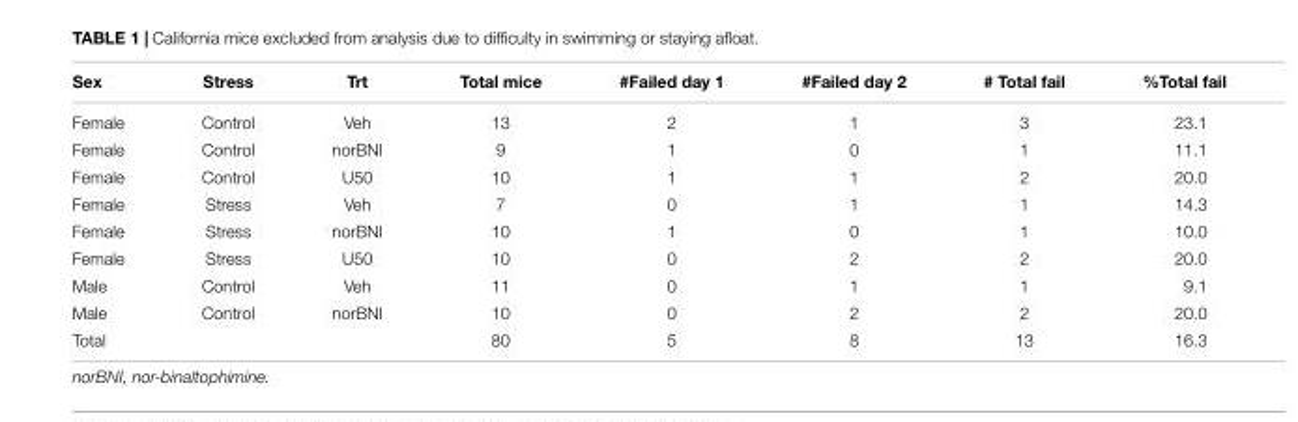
<table><thead><tr><td>Sex</td><td>Stress</td><td>Trt</td><td>Total mice</td><td>#Failed day 1</td><td>#Failed day 2</td><td># Total fail</td><td>%Total fail</td></tr></thead><tbody><tr><td>Female</td><td>Control</td><td>Veh</td><td>13</td><td>2</td><td>1</td><td>3</td><td>23.1</td></tr><tr><td>Female</td><td>Control</td><td>norBNI</td><td>9</td><td>1</td><td>0</td><td>1</td><td>11.1</td></tr><tr><td>Female</td><td>Control</td><td>U50</td><td>10</td><td>1</td><td>1</td><td>2</td><td>20.0</td></tr><tr><td>Female</td><td>Stress</td><td>Veh</td><td>7</td><td>0</td><td>1</td><td>1</td><td>14.3</td></tr><tr><td>Female</td><td>Stress</td><td>norBNI</td><td>10</td><td>1</td><td>0</td><td>1</td><td>10.0</td></tr><tr><td>Female</td><td>Stress</td><td>U50</td><td>10</td><td>0</td><td>2</td><td>2</td><td>20.0</td></tr><tr><td>Male</td><td>Control</td><td>Veh</td><td>11</td><td>0</td><td>1</td><td>1</td><td>9.1</td></tr><tr><td>Male</td><td>Control</td><td>norBNI</td><td>10</td><td>0</td><td>2</td><td>2</td><td>20.0</td></tr><tr><td>Total</td><td></td><td></td><td>80</td><td>5</td><td>8</td><td>13</td><td>16.3</td></tr></tbody></table>